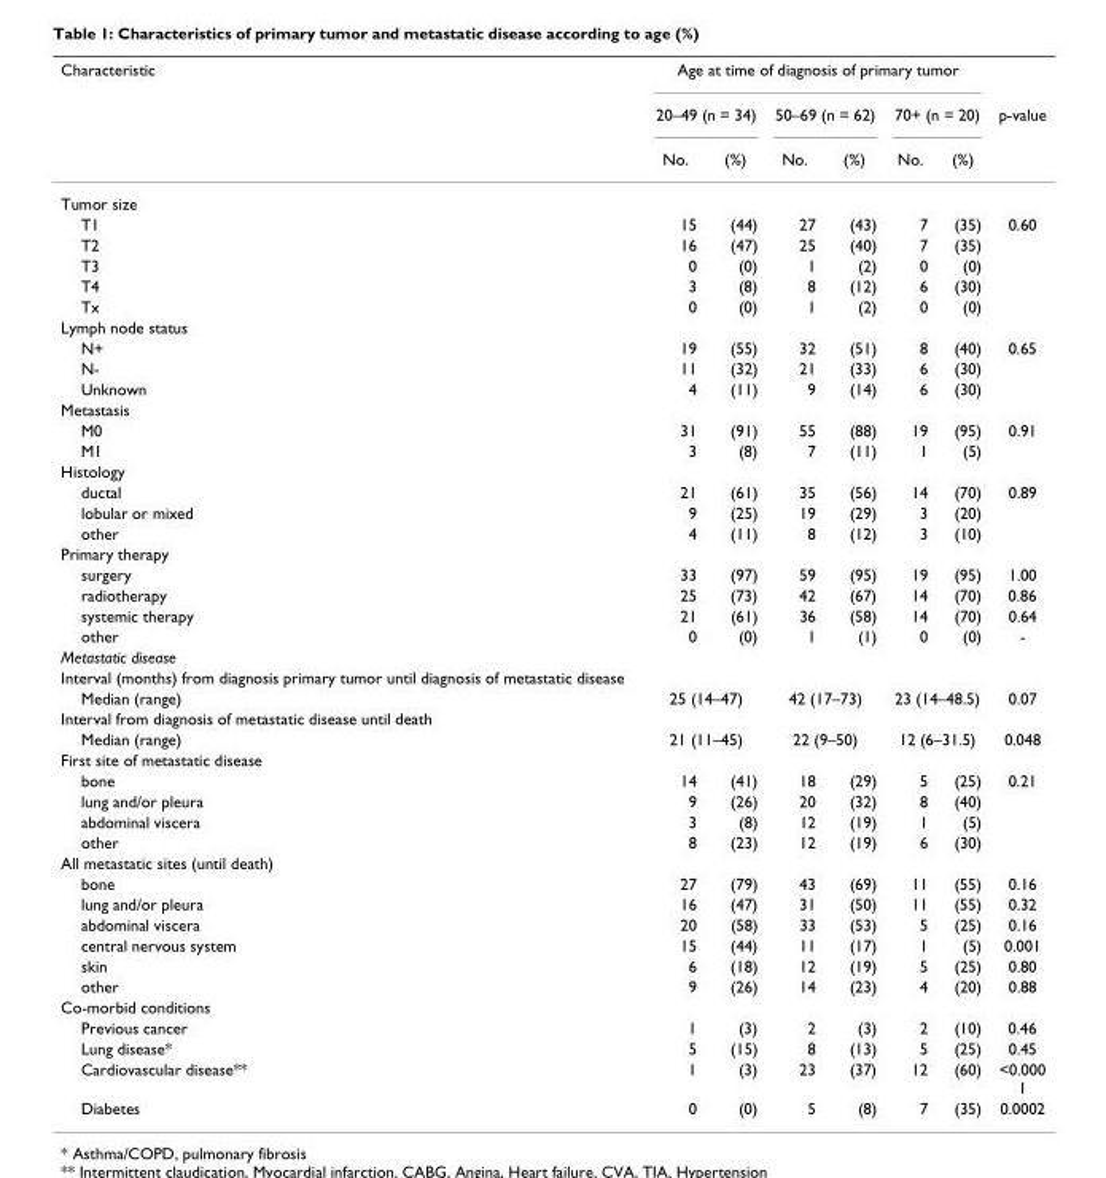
<table><thead><tr><td rowspan="3">Characteristic</td><td colspan="6">Age at time of diagnosis of primary tumor</td><td rowspan="3">p-value</td></tr><tr><td colspan="2">20–49 (n = 34)</td><td colspan="2">50–69 (n = 62)</td><td colspan="2">70+ (n = 20)</td></tr><tr><td>No.</td><td>(%)</td><td>No.</td><td>(%)</td><td>No.</td><td>(%)</td></tr></thead><tbody><tr><td colspan="8">Tumor size</td></tr><tr><td>T1</td><td>15</td><td>(44)</td><td>27</td><td>(43)</td><td>7</td><td>(35)</td><td>0.60</td></tr><tr><td>T2</td><td>16</td><td>(47)</td><td>25</td><td>(40)</td><td>7</td><td>(35)</td><td></td></tr><tr><td>T3</td><td>0</td><td>(0)</td><td>1</td><td>(2)</td><td>0</td><td>(0)</td><td></td></tr><tr><td>T4</td><td>3</td><td>(8)</td><td>8</td><td>(12)</td><td>6</td><td>(30)</td><td></td></tr><tr><td>Tx</td><td>0</td><td>(0)</td><td>1</td><td>(2)</td><td>0</td><td>(0)</td><td></td></tr><tr><td colspan="8">Lymph node status</td></tr><tr><td>N+</td><td>19</td><td>(55)</td><td>32</td><td>(51)</td><td>8</td><td>(40)</td><td>0.65</td></tr><tr><td>N-</td><td>11</td><td>(32)</td><td>21</td><td>(33)</td><td>6</td><td>(30)</td><td></td></tr><tr><td>Unknown</td><td>4</td><td>(11)</td><td>9</td><td>(14)</td><td>6</td><td>(30)</td><td></td></tr><tr><td colspan="8">Metastasis</td></tr><tr><td>M0</td><td>31</td><td>(91)</td><td>55</td><td>(88)</td><td>19</td><td>(95)</td><td>0.91</td></tr><tr><td>M1</td><td>3</td><td>(8)</td><td>7</td><td>(11)</td><td>1</td><td>(5)</td><td></td></tr><tr><td colspan="8">Histology</td></tr><tr><td>ductal</td><td>21</td><td>(61)</td><td>35</td><td>(56)</td><td>14</td><td>(70)</td><td>0.89</td></tr><tr><td>lobular or mixed</td><td>9</td><td>(25)</td><td>19</td><td>(29)</td><td>3</td><td>(20)</td><td></td></tr><tr><td>other</td><td>4</td><td>(11)</td><td>8</td><td>(12)</td><td>3</td><td>(10)</td><td></td></tr><tr><td colspan="8">Primary therapy</td></tr><tr><td>surgery</td><td>33</td><td>(97)</td><td>59</td><td>(95)</td><td>19</td><td>(95)</td><td>1.00</td></tr><tr><td>radiotherapy</td><td>25</td><td>(73)</td><td>42</td><td>(67)</td><td>14</td><td>(70)</td><td>0.86</td></tr><tr><td>systemic therapy</td><td>21</td><td>(61)</td><td>36</td><td>(58)</td><td>14</td><td>(70)</td><td>0.64</td></tr><tr><td>other</td><td>0</td><td>(0)</td><td>1</td><td>(1)</td><td>0</td><td>(0)</td><td>-</td></tr><tr><td colspan="8">Metastatic disease</td></tr><tr><td colspan="8">Interval (months) from diagnosis primary tumor until diagnosis of metastatic disease</td></tr><tr><td>Median (range)</td><td colspan="2">25 (14–47)</td><td colspan="2">42 (17–73)</td><td colspan="2">23 (14–48.5)</td><td>0.07</td></tr><tr><td colspan="8">Interval from diagnosis of metastatic disease until death</td></tr><tr><td>Median (range)</td><td colspan="2">21 (11–45)</td><td colspan="2">22 (9–50)</td><td colspan="2">12 (6–31.5)</td><td>0.048</td></tr><tr><td colspan="8">First site of metastatic disease</td></tr><tr><td>bone</td><td>14</td><td>(41)</td><td>18</td><td>(29)</td><td>5</td><td>(25)</td><td>0.21</td></tr><tr><td>lung and/or pleura</td><td>9</td><td>(26)</td><td>20</td><td>(32)</td><td>8</td><td>(40)</td><td></td></tr><tr><td>abdominal viscera</td><td>3</td><td>(8)</td><td>12</td><td>(19)</td><td>1</td><td>(5)</td><td></td></tr><tr><td>other</td><td>8</td><td>(23)</td><td>12</td><td>(19)</td><td>6</td><td>(30)</td><td></td></tr><tr><td colspan="8">All metastatic sites (until death)</td></tr><tr><td>bone</td><td>27</td><td>(79)</td><td>43</td><td>(69)</td><td>11</td><td>(55)</td><td>0.16</td></tr><tr><td>lung and/or pleura</td><td>16</td><td>(47)</td><td>31</td><td>(50)</td><td>11</td><td>(55)</td><td>0.32</td></tr><tr><td>abdominal viscera</td><td>20</td><td>(58)</td><td>33</td><td>(53)</td><td>5</td><td>(25)</td><td>0.16</td></tr><tr><td>central nervous system</td><td>15</td><td>(44)</td><td>11</td><td>(17)</td><td>1</td><td>(5)</td><td>0.001</td></tr><tr><td>skin</td><td>6</td><td>(18)</td><td>12</td><td>(19)</td><td>5</td><td>(25)</td><td>0.80</td></tr><tr><td>other</td><td>9</td><td>(26)</td><td>14</td><td>(23)</td><td>4</td><td>(20)</td><td>0.88</td></tr><tr><td colspan="8">Co-morbid conditions</td></tr><tr><td>Previous cancer</td><td>1</td><td>(3)</td><td>2</td><td>(3)</td><td>2</td><td>(10)</td><td>0.46</td></tr><tr><td>Lung disease*</td><td>5</td><td>(15)</td><td>8</td><td>(13)</td><td>5</td><td>(25)</td><td>0.45</td></tr><tr><td>Cardiovascular disease**</td><td>1</td><td>(3)</td><td>23</td><td>(37)</td><td>12</td><td>(60)</td><td>&lt;0.000 1</td></tr><tr><td>Diabetes</td><td>0</td><td>(0)</td><td>5</td><td>(8)</td><td>7</td><td>(35)</td><td>0.0002</td></tr></tbody></table>